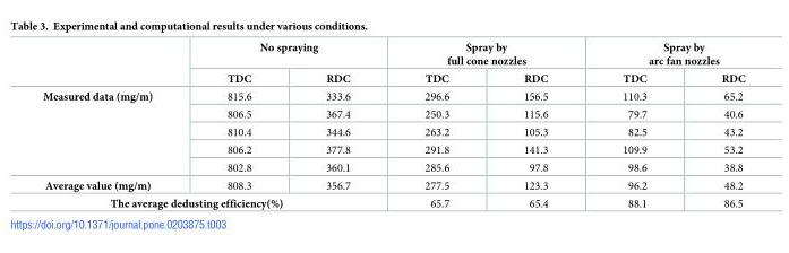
<table><thead><tr><td rowspan="2"></td><td colspan="2">No spraying</td><td colspan="2">Spray by full cone nozzles</td><td colspan="2">Spray by arc fan nozzles</td></tr><tr><td>TDC</td><td>RDC</td><td>TDC</td><td>RDC</td><td>TDC</td><td>RDC</td></tr></thead><tbody><tr><td rowspan="5">Measured data (mg/m)</td><td>815.6</td><td>333.6</td><td>296.6</td><td>156.5</td><td>110.3</td><td>65.2</td></tr><tr><td>806.5</td><td>367.4</td><td>250.3</td><td>115.6</td><td>79.7</td><td>40.6</td></tr><tr><td>810.4</td><td>344.6</td><td>263.2</td><td>105.3</td><td>82.5</td><td>43.2</td></tr><tr><td>806.2</td><td>377.8</td><td>291.8</td><td>141.3</td><td>109.9</td><td>53.2</td></tr><tr><td>802.8</td><td>360.1</td><td>285.6</td><td>97.8</td><td>98.6</td><td>38.8</td></tr><tr><td>Average value (mg/m)</td><td>808.3</td><td>356.7</td><td>277.5</td><td>123.3</td><td>96.2</td><td>48.2</td></tr><tr><td colspan="3">The average dedusting efficiency(%)</td><td>65.7</td><td>65.4</td><td>88.1</td><td>86.5</td></tr></tbody></table>